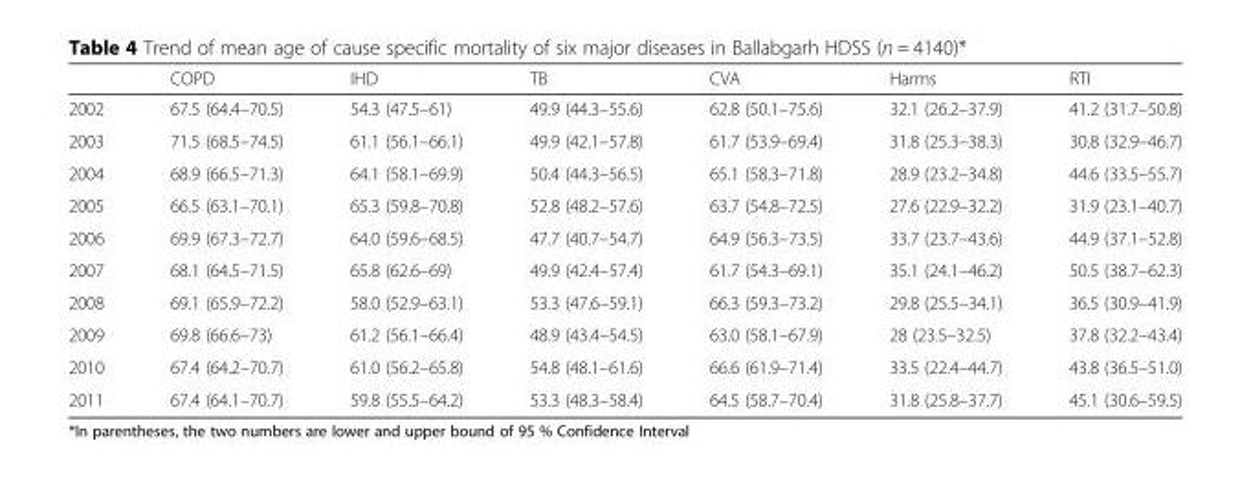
<table><thead><tr><td></td><td>COPD</td><td>IHD</td><td>TB</td><td>CVA</td><td>Harms</td><td>RTI</td></tr></thead><tbody><tr><td>2002</td><td>67.5 (64.4–70.5)</td><td>54.3 (47.5–61)</td><td>49.9 (44.3–55.6)</td><td>62.8 (50.1–75.6)</td><td>32.1 (26.2–37.9)</td><td>41.2 (31.7–50.8)</td></tr><tr><td>2003</td><td>71.5 (68.5–74.5)</td><td>61.1 (56.1–66.1)</td><td>49.9 (42.1–57.8)</td><td>61.7 (53.9–69.4)</td><td>31.8 (25.3–38.3)</td><td>30.8 (32.9–46.7)</td></tr><tr><td>2004</td><td>68.9 (66.5–71.3)</td><td>64.1 (58.1–69.9)</td><td>50.4 (44.3–56.5)</td><td>65.1 (58.3–71.8)</td><td>28.9 (23.2–34.8)</td><td>44.6 (33.5–55.7)</td></tr><tr><td>2005</td><td>66.5 (63.1–70.1)</td><td>65.3 (59.8–70.8)</td><td>52.8 (48.2–57.6)</td><td>63.7 (54.8–72.5)</td><td>27.6 (22.9–32.2)</td><td>31.9 (23.1–40.7)</td></tr><tr><td>2006</td><td>69.9 (67.3–72.7)</td><td>64.0 (59.6–68.5)</td><td>47.7 (40.7–54.7)</td><td>64.9 (56.3–73.5)</td><td>33.7 (23.7–43.6)</td><td>44.9 (37.1–52.8)</td></tr><tr><td>2007</td><td>68.1 (64.5–71.5)</td><td>65.8 (62.6–69)</td><td>49.9 (42.4–57.4)</td><td>61.7 (54.3–69.1)</td><td>35.1 (24.1–46.2)</td><td>50.5 (38.7–62.3)</td></tr><tr><td>2008</td><td>69.1 (65.9–72.2)</td><td>58.0 (52.9–63.1)</td><td>53.3 (47.6–59.1)</td><td>66.3 (59.3–73.2)</td><td>29.8 (25.5–34.1)</td><td>36.5 (30.9–41.9)</td></tr><tr><td>2009</td><td>69.8 (66.6–73)</td><td>61.2 (56.1–66.4)</td><td>48.9 (43.4–54.5)</td><td>63.0 (58.1–67.9)</td><td>28 (23.5–32.5)</td><td>37.8 (32.2–43.4)</td></tr><tr><td>2010</td><td>67.4 (64.2–70.7)</td><td>61.0 (56.2–65.8)</td><td>54.8 (48.1–61.6)</td><td>66.6 (61.9–71.4)</td><td>33.5 (22.4–44.7)</td><td>43.8 (36.5–51.0)</td></tr><tr><td>2011</td><td>67.4 (64.1–70.7)</td><td>59.8 (55.5–64.2)</td><td>53.3 (48.3–58.4)</td><td>64.5 (58.7–70.4)</td><td>31.8 (25.8–37.7)</td><td>45.1 (30.6–59.5)</td></tr></tbody></table>